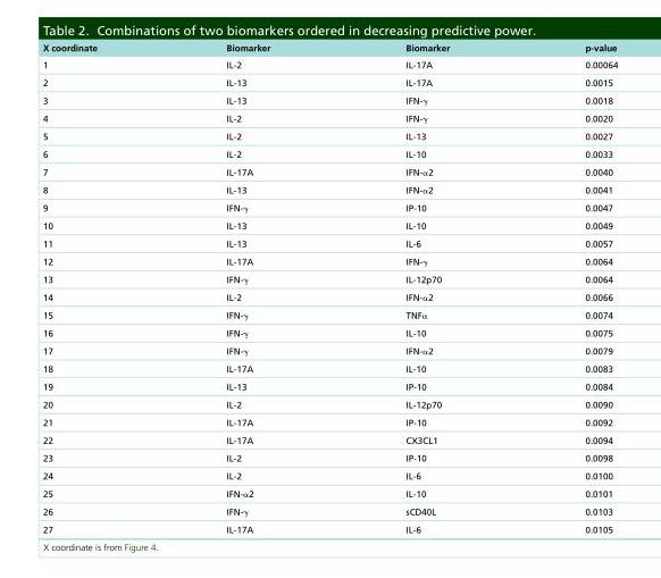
<table><thead><tr><td>X coordinate</td><td>Biomarker</td><td>Biomarker</td><td>p-value</td></tr></thead><tbody><tr><td>1</td><td>IL-2</td><td>IL-17A</td><td>0.00064</td></tr><tr><td>2</td><td>IL-13</td><td>IL-17A</td><td>0.0015</td></tr><tr><td>3</td><td>IL-13</td><td>IFN-γ</td><td>0.0018</td></tr><tr><td>4</td><td>IL-2</td><td>IFN-γ</td><td>0.0020</td></tr><tr><td>5</td><td>IL-2</td><td>IL-13</td><td>0.0027</td></tr><tr><td>6</td><td>IL-2</td><td>IL-10</td><td>0.0033</td></tr><tr><td>7</td><td>IL-17A</td><td>IFN-α2</td><td>0.0040</td></tr><tr><td>8</td><td>IL-13</td><td>IFN-α2</td><td>0.0041</td></tr><tr><td>9</td><td>IFN-γ</td><td>IP-10</td><td>0.0047</td></tr><tr><td>10</td><td>IL-13</td><td>IL-10</td><td>0.0049</td></tr><tr><td>11</td><td>IL-13</td><td>IL-6</td><td>0.0057</td></tr><tr><td>12</td><td>IL-17A</td><td>IFN-γ</td><td>0.0064</td></tr><tr><td>13</td><td>IFN-γ</td><td>IL-12p70</td><td>0.0064</td></tr><tr><td>14</td><td>IL-2</td><td>IFN-α2</td><td>0.0066</td></tr><tr><td>15</td><td>IFN-γ</td><td>TNFα</td><td>0.0074</td></tr><tr><td>16</td><td>IFN-γ</td><td>IL-10</td><td>0.0075</td></tr><tr><td>17</td><td>IFN-γ</td><td>IFN-α2</td><td>0.0079</td></tr><tr><td>18</td><td>IL-17A</td><td>IL-10</td><td>0.0083</td></tr><tr><td>19</td><td>IL-13</td><td>IP-10</td><td>0.0084</td></tr><tr><td>20</td><td>IL-2</td><td>IL-12p70</td><td>0.0090</td></tr><tr><td>21</td><td>IL-17A</td><td>IP-10</td><td>0.0092</td></tr><tr><td>22</td><td>IL-17A</td><td>CX3CL1</td><td>0.0094</td></tr><tr><td>23</td><td>IL-2</td><td>IP-10</td><td>0.0098</td></tr><tr><td>24</td><td>IL-2</td><td>IL-6</td><td>0.0100</td></tr><tr><td>25</td><td>IFN-α2</td><td>IL-10</td><td>0.0101</td></tr><tr><td>26</td><td>IFN-γ</td><td>sCD40L</td><td>0.0103</td></tr><tr><td>27</td><td>IL-17A</td><td>IL-6</td><td>0.0105</td></tr></tbody></table>